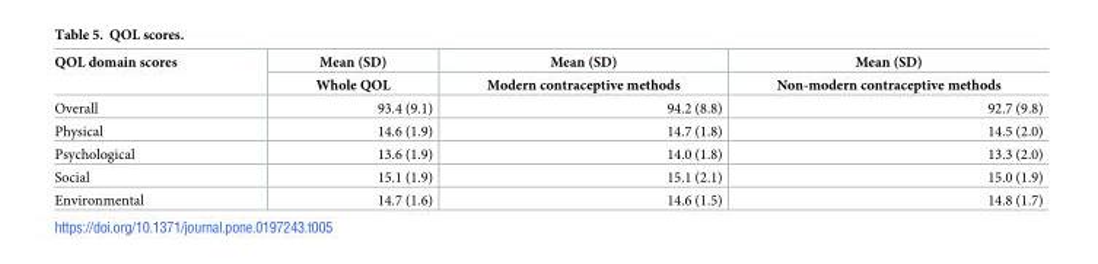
<table><thead><tr><td rowspan="2">QOL domain scores</td><td rowspan="2">Mean (SD) Whole QOL</td><td rowspan="2">Mean (SD) Modern contraceptive methods</td><td rowspan="2">Mean (SD) Non-modern contraceptive methods</td></tr><tr></tr></thead><tbody><tr><td>Overall</td><td>93.4 (9.1)</td><td>94.2 (8.8)</td><td>92.7 (9.8)</td></tr><tr><td>Physical</td><td>14.6 (1.9)</td><td>14.7 (1.8)</td><td>14.5 (2.0)</td></tr><tr><td>Psychological</td><td>13.6 (1.9)</td><td>14.0 (1.8)</td><td>13.3 (2.0)</td></tr><tr><td>Social</td><td>15.1 (1.9)</td><td>15.1 (2.1)</td><td>15.0 (1.9)</td></tr><tr><td>Environmental</td><td>14.7 (1.6)</td><td>14.6 (1.5)</td><td>14.8 (1.7)</td></tr></tbody></table>